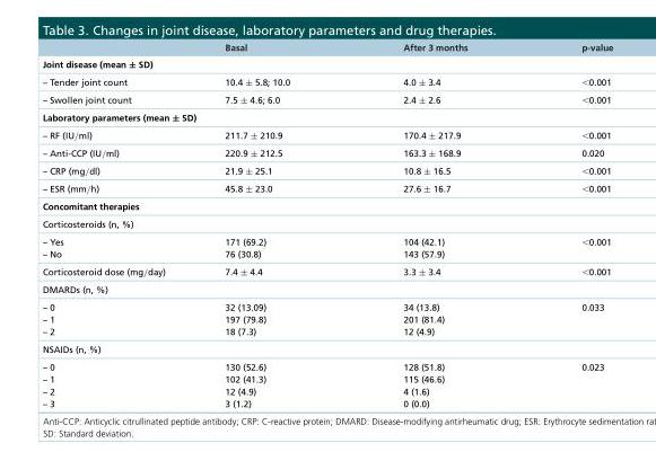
<table><thead><tr><td></td><td>Basal</td><td>After 3 months</td><td>p-value</td></tr></thead><tbody><tr><td colspan="4">Joint disease (mean ± SD)</td></tr><tr><td>– Tender joint count</td><td>10.4 ± 5.8; 10.0</td><td>4.0 ± 3.4</td><td>&lt;0.001</td></tr><tr><td>– Swollen joint count</td><td>7.5 ± 4.6; 6.0</td><td>2.4 ± 2.6</td><td>&lt;0.001</td></tr><tr><td colspan="4">Laboratory parameters (mean ± SD)</td></tr><tr><td>– RF (IU/ml)</td><td>211.7 ± 210.9</td><td>170.4 ± 217.9</td><td>&lt;0.001</td></tr><tr><td>– Anti-CCP (IU/ml)</td><td>220.9 ± 212.5</td><td>163.3 ± 168.9</td><td>0.020</td></tr><tr><td>– CRP (mg/dl)</td><td>21.9 ± 25.1</td><td>10.8 ± 16.5</td><td>&lt;0.001</td></tr><tr><td>– ESR (mm/h)</td><td>45.8 ± 23.0</td><td>27.6 ± 16.7</td><td>&lt;0.001</td></tr><tr><td colspan="4">Concomitant therapies</td></tr><tr><td colspan="4">Corticosteroids (n, %)</td></tr><tr><td>– Yes – No</td><td>171 (69.2) 76 (30.8)</td><td>104 (42.1) 143 (57.9)</td><td>&lt;0.001</td></tr><tr><td>Corticosteroid dose (mg/day)</td><td>7.4 ± 4.4</td><td>3.3 ± 3.4</td><td>&lt;0.001</td></tr><tr><td colspan="4">DMARDs (n, %)</td></tr><tr><td>– 0 – 1 – 2</td><td>32 (13.09) 197 (79.8) 18 (7.3)</td><td>34 (13.8) 201 (81.4) 12 (4.9)</td><td>0.033</td></tr><tr><td colspan="4">NSAIDs (n, %)</td></tr><tr><td>– 0 – 1 – 2 – 3</td><td>130 (52.6) 102 (41.3) 12 (4.9) 3 (1.2)</td><td>128 (51.8) 115 (46.6) 4 (1.6) 0 (0.0)</td><td>0.023</td></tr></tbody></table>